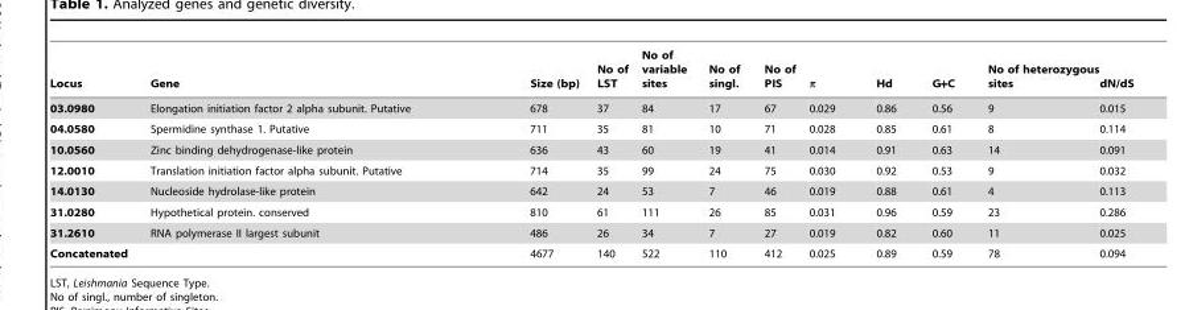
<table><thead><tr><td>Locus</td><td>Gene</td><td>Size (bp)</td><td>No of LST</td><td>No of variable sites</td><td>No of singl.</td><td>No of PIS</td><td>π</td><td>Hd</td><td>G+C</td><td>No of heterozygous sites</td><td>dN/dS</td></tr></thead><tbody><tr><td>03.0980</td><td>Elongation initiation factor 2 alpha subunit. Putative</td><td>678</td><td>37</td><td>84</td><td>17</td><td>67</td><td>0.029</td><td>0.86</td><td>0.56</td><td>9</td><td>0.015</td></tr><tr><td>04.0580</td><td>Spermidine synthase 1. Putative</td><td>711</td><td>35</td><td>81</td><td>10</td><td>71</td><td>0.028</td><td>0.85</td><td>0.61</td><td>8</td><td>0.114</td></tr><tr><td>10.0560</td><td>Zinc binding dehydrogenase-like protein</td><td>636</td><td>43</td><td>60</td><td>19</td><td>41</td><td>0.014</td><td>0.91</td><td>0.63</td><td>14</td><td>0.091</td></tr><tr><td>12.0010</td><td>Translation initiation factor alpha subunit. Putative</td><td>714</td><td>35</td><td>99</td><td>24</td><td>75</td><td>0.030</td><td>0.92</td><td>0.53</td><td>9</td><td>0.032</td></tr><tr><td>14.0130</td><td>Nucleoside hydrolase-like protein</td><td>642</td><td>24</td><td>53</td><td>7</td><td>46</td><td>0.019</td><td>0.88</td><td>0.61</td><td>4</td><td>0.113</td></tr><tr><td>31.0280</td><td>Hypothetical protein. conserved</td><td>810</td><td>61</td><td>111</td><td>26</td><td>85</td><td>0.031</td><td>0.96</td><td>0.59</td><td>23</td><td>0.286</td></tr><tr><td>31.2610</td><td>RNA polymerase II largest subunit</td><td>486</td><td>26</td><td>34</td><td>7</td><td>27</td><td>0.019</td><td>0.82</td><td>0.60</td><td>11</td><td>0.025</td></tr><tr><td>Concatenated</td><td></td><td>4677</td><td>140</td><td>522</td><td>110</td><td>412</td><td>0.025</td><td>0.89</td><td>0.59</td><td>78</td><td>0.094</td></tr></tbody></table>